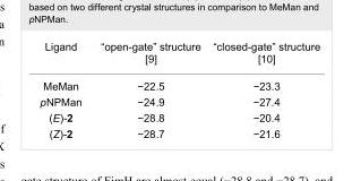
<table><tbody><tr><td>Ligand</td><td>“open-gate” structure [9]</td><td>“closed-gate” structure [10]</td></tr><tr><td>MeMan</td><td>−22.5</td><td>−23.3</td></tr><tr><td>pNPMan</td><td>−24.9</td><td>−27.4</td></tr><tr><td>(E)-2</td><td>−28.8</td><td>−20.4</td></tr><tr><td>(Z)-2</td><td>−28.7</td><td>−21.6</td></tr></tbody></table>